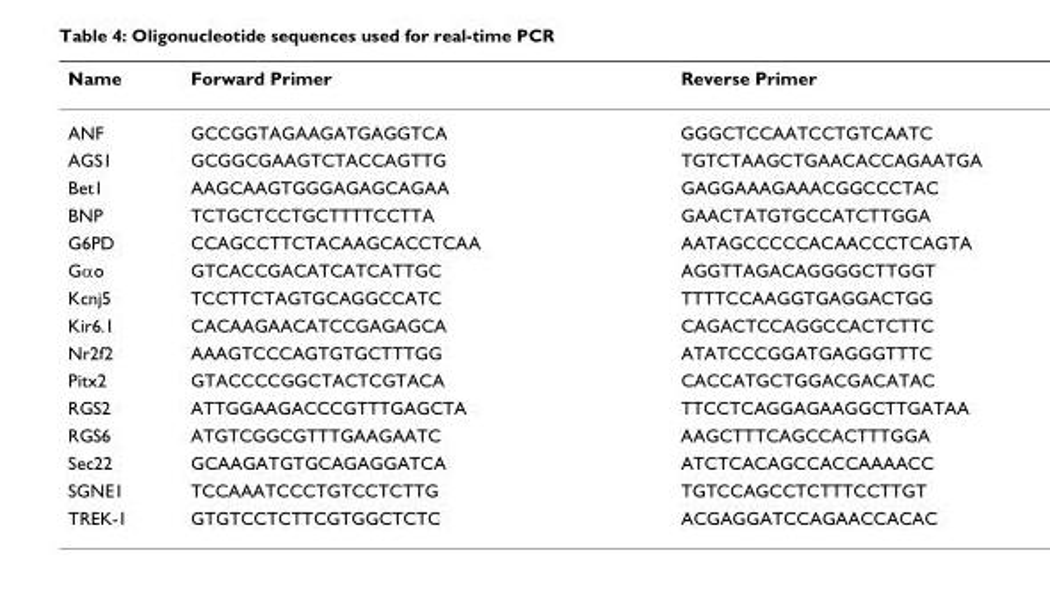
<table><thead><tr><td>Name</td><td>Forward Primer</td><td>Reverse Primer</td></tr></thead><tbody><tr><td>ANF</td><td>GCCGGTAGAAGATGAGGTCA</td><td>GGGCTCCAATCCTGTCAATC</td></tr><tr><td>AGS1</td><td>GCGGCGAAGTCTACCAGTTG</td><td>TGTCTAAGCTGAACACCAGAATGA</td></tr><tr><td>Bet1</td><td>AAGCAAGTGGGAGAGCAGAA</td><td>GAGGAAAGAAACGGCCCTAC</td></tr><tr><td>BNP</td><td>TCTGCTCCTGCTTTTCCTTA</td><td>GAACTATGTGCCATCTTGGA</td></tr><tr><td>G6PD</td><td>CCAGCCTTCTACAAGCACCTCAA</td><td>AATAGCCCCCACAACCCTCAGTA</td></tr><tr><td>Gαo</td><td>GTCACCGACATCATCATTGC</td><td>AGGTTAGACAGGGGCTTGGT</td></tr><tr><td>Kcnj5</td><td>TCCTTCTAGTGCAGGCCATC</td><td>TTTTCCAAGGTGAGGACTGG</td></tr><tr><td>Kir6.1</td><td>CACAAGAACATCCGAGAGCA</td><td>CAGACTCCAGGCCACTCTTC</td></tr><tr><td>Nr2f2</td><td>AAAGTCCCAGTGTGCTTTGG</td><td>ATATCCCGGATGAGGGTTTC</td></tr><tr><td>Pitx2</td><td>GTACCCCGGCTACTCGTACA</td><td>CACCATGCTGGACGACATAC</td></tr><tr><td>RGS2</td><td>ATTGGAAGACCCGTTTGAGCTA</td><td>TTCCTCAGGAGAAGGCTTGATAA</td></tr><tr><td>RGS6</td><td>ATGTCGGCGTTTGAAGAATC</td><td>AAGCTTTCAGCCACTTTGGA</td></tr><tr><td>Sec22</td><td>GCAAGATGTGCAGAGGATCA</td><td>ATCTCACAGCCACCAAAACC</td></tr><tr><td>SGNE1</td><td>TCCAAATCCCTGTCCTCTTG</td><td>TGTCCAGCCTCTTTCCTTGT</td></tr><tr><td>TREK-1</td><td>GTGTCCTCTTCGTGGCTCTC</td><td>ACGAGGATCCAGAACCACAC</td></tr></tbody></table>